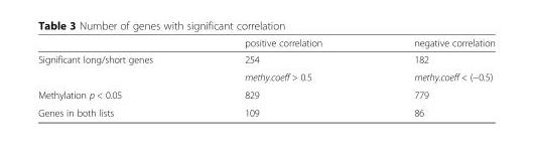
<table><thead><tr><td></td><td>positive correlation</td><td>negative correlation</td></tr></thead><tbody><tr><td rowspan="2">Significant long/short genes</td><td>254</td><td>182</td></tr><tr><td>methy.coeff &gt; 0.5</td><td>methy.coeff &lt; (−0.5)</td></tr><tr><td>Methylation p &lt; 0.05</td><td>829</td><td>779</td></tr><tr><td>Genes in both lists</td><td>109</td><td>86</td></tr></tbody></table>